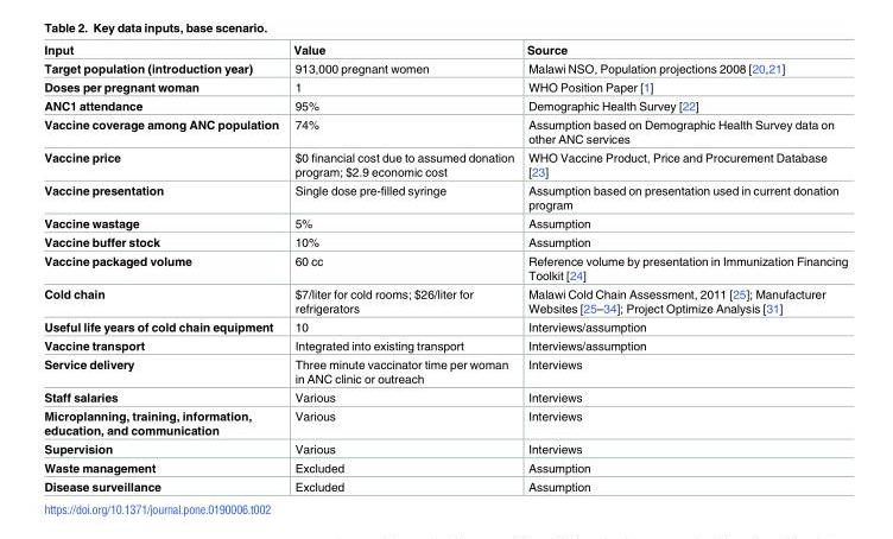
<table><thead><tr><td>Input</td><td>Value</td><td>Source</td></tr></thead><tbody><tr><td>Target population (introduction year)</td><td>913,000 pregnant women</td><td>Malawi NSO, Population projections 2008 [20,21]</td></tr><tr><td>Doses per pregnant woman</td><td>1</td><td>WHO Position Paper [1]</td></tr><tr><td>ANC1 attendance</td><td>95%</td><td>Demographic Health Survey [22]</td></tr><tr><td>Vaccine coverage among ANC population</td><td>74%</td><td>Assumption based on Demographic Health Survey data on other ANC services</td></tr><tr><td>Vaccine price</td><td>$0 financial cost due to assumed donation program; $2.9 economic cost</td><td>WHO Vaccine Product, Price and Procurement Database [23]</td></tr><tr><td>Vaccine presentation</td><td>Single dose pre-filled syringe</td><td>Assumption based on presentation used in current donation program</td></tr><tr><td>Vaccine wastage</td><td>5%</td><td>Assumption</td></tr><tr><td>Vaccine buffer stock</td><td>10%</td><td>Assumption</td></tr><tr><td>Vaccine packaged volume</td><td>60 cc</td><td>Reference volume by presentation in Immunization Financing Toolkit [24]</td></tr><tr><td>Cold chain</td><td>$7/liter for cold rooms; $26/liter for refrigerators</td><td>Malawi Cold Chain Assessment, 2011 [25]; Manufacturer Websites [25–34]; Project Optimize Analysis [31]</td></tr><tr><td>Useful life years of cold chain equipment</td><td>10</td><td>Interviews/assumption</td></tr><tr><td>Vaccine transport</td><td>Integrated into existing transport</td><td>Interviews/assumption</td></tr><tr><td>Service delivery</td><td>Three minute vaccinator time per woman in ANC clinic or outreach</td><td>Interviews</td></tr><tr><td>Staff salaries</td><td>Various</td><td>Interviews</td></tr><tr><td>Microplanning, training, information, education, and communication</td><td>Various</td><td>Interviews</td></tr><tr><td>Supervision</td><td>Various</td><td>Interviews</td></tr><tr><td>Waste management</td><td>Excluded</td><td>Assumption</td></tr><tr><td>Disease surveillance</td><td>Excluded</td><td>Assumption</td></tr></tbody></table>